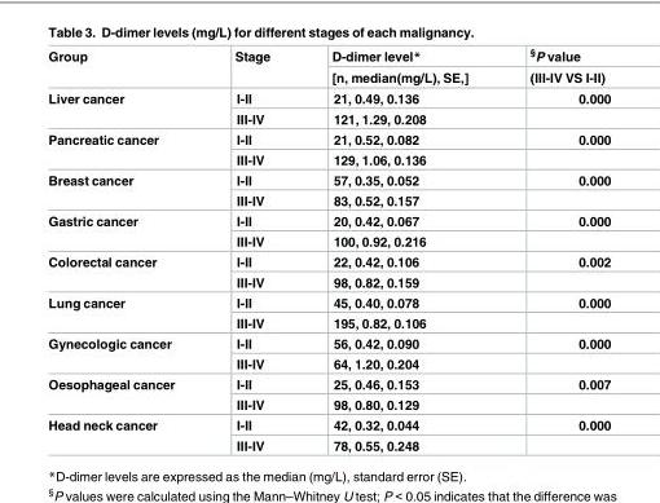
<table><thead><tr><td rowspan="2">Group</td><td rowspan="2">Stage</td><td rowspan="2">D-dimer level* [n, median(mg/L), SE,]</td><td rowspan="2"><sup>§</sup>P value (III-IV VS I-II)</td></tr><tr></tr></thead><tbody><tr><td rowspan="2">Liver cancer</td><td>I-II</td><td>21, 0.49, 0.136</td><td>0.000</td></tr><tr><td>III-IV</td><td>121, 1.29, 0.208</td><td></td></tr><tr><td rowspan="2">Pancreatic cancer</td><td>I-II</td><td>21, 0.52, 0.082</td><td>0.000</td></tr><tr><td>III-IV</td><td>129, 1.06, 0.136</td><td></td></tr><tr><td rowspan="2">Breast cancer</td><td>I-II</td><td>57, 0.35, 0.052</td><td>0.000</td></tr><tr><td>III-IV</td><td>83, 0.52, 0.157</td><td></td></tr><tr><td rowspan="2">Gastric cancer</td><td>I-II</td><td>20, 0.42, 0.067</td><td>0.000</td></tr><tr><td>III-IV</td><td>100, 0.92, 0.216</td><td></td></tr><tr><td rowspan="2">Colorectal cancer</td><td>I-II</td><td>22, 0.42, 0.106</td><td>0.002</td></tr><tr><td>III-IV</td><td>98, 0.82, 0.159</td><td></td></tr><tr><td rowspan="2">Lung cancer</td><td>I-II</td><td>45, 0.40, 0.078</td><td>0.000</td></tr><tr><td>III-IV</td><td>195, 0.82, 0.106</td><td></td></tr><tr><td rowspan="2">Gynecologic cancer</td><td>I-II</td><td>56, 0.42, 0.090</td><td>0.000</td></tr><tr><td>III-IV</td><td>64, 1.20, 0.204</td><td></td></tr><tr><td rowspan="2">Oesophageal cancer</td><td>I-II</td><td>25, 0.46, 0.153</td><td>0.007</td></tr><tr><td>III-IV</td><td>98, 0.80, 0.129</td><td></td></tr><tr><td rowspan="2">Head neck cancer</td><td>I-II</td><td>42, 0.32, 0.044</td><td>0.000</td></tr><tr><td>III-IV</td><td>78, 0.55, 0.248</td><td></td></tr></tbody></table>